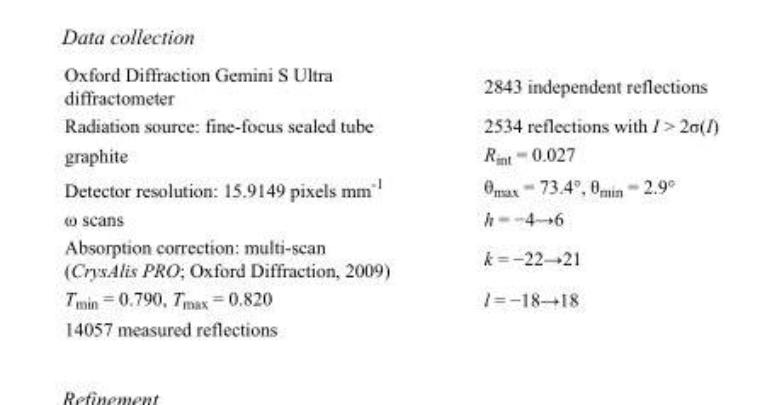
<table><tbody><tr><td>Oxford Diffraction Gemini S Ultra diffractometer</td><td>2843 independent reflections</td></tr><tr><td>Radiation source: fine-focus sealed tube</td><td>2534 reflections with I &gt; 2σ(I)</td></tr><tr><td>graphite</td><td>R<sub>int</sub> = 0.027</td></tr><tr><td>Detector resolution: 15.9149 pixels mm<sup>-1</sup></td><td>θ<sub>max</sub> = 73.4°, θ<sub>min</sub> = 2.9°</td></tr><tr><td>ω scans</td><td>h = −4→6</td></tr><tr><td>Absorption correction: multi-scan (CrysAlis PRO; Oxford Diffraction, 2009)</td><td>k = −22→21</td></tr><tr><td>T<sub>min</sub> = 0.790, T<sub>max</sub> = 0.820</td><td>l = −18→18</td></tr><tr><td>14057 measured reflections</td><td></td></tr></tbody></table>